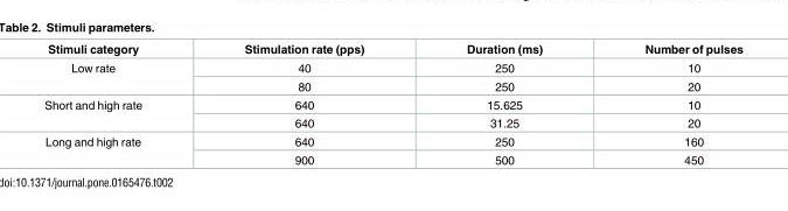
<table><thead><tr><td>Stimuli category</td><td>Stimulation rate (pps)</td><td>Duration (ms)</td><td>Number of pulses</td></tr></thead><tbody><tr><td rowspan="2">Low rate</td><td>40</td><td>250</td><td>10</td></tr><tr><td>80</td><td>250</td><td>20</td></tr><tr><td rowspan="2">Short and high rate</td><td>640</td><td>15.625</td><td>10</td></tr><tr><td>640</td><td>31.25</td><td>20</td></tr><tr><td rowspan="2">Long and high rate</td><td>640</td><td>250</td><td>160</td></tr><tr><td>900</td><td>500</td><td>450</td></tr></tbody></table>